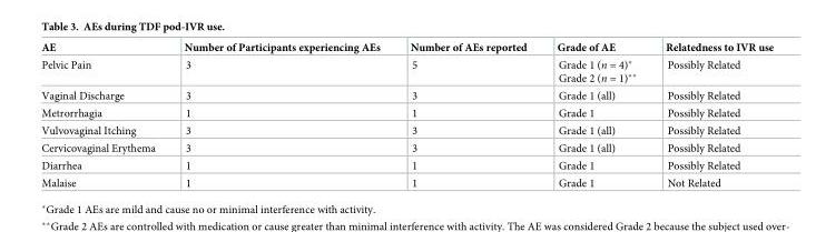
<table><thead><tr><td>AE</td><td>Number of Participants experiencing AEs</td><td>Number of AEs reported</td><td>Grade of AE</td><td>Relatedness to IVR use</td></tr></thead><tbody><tr><td>Pelvic Pain</td><td>3</td><td>5</td><td>Grade 1 (n = 4)* Grade 2 (n = 1)**</td><td>Possibly Related</td></tr><tr><td>Vaginal Discharge</td><td>3</td><td>3</td><td>Grade 1 (all)</td><td>Possibly Related</td></tr><tr><td>Metrorrhagia</td><td>1</td><td>1</td><td>Grade 1</td><td>Possibly Related</td></tr><tr><td>Vulvovaginal Itching</td><td>3</td><td>3</td><td>Grade 1 (all)</td><td>Possibly Related</td></tr><tr><td>Cervicovaginal Erythema</td><td>3</td><td>3</td><td>Grade 1 (all)</td><td>Possibly Related</td></tr><tr><td>Diarrhea</td><td>1</td><td>1</td><td>Grade 1</td><td>Possibly Related</td></tr><tr><td>Malaise</td><td>1</td><td>1</td><td>Grade 1</td><td>Not Related</td></tr></tbody></table>